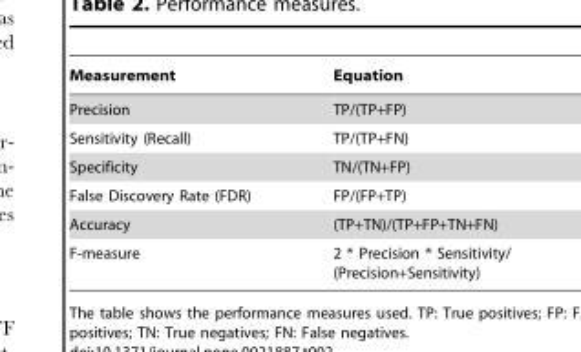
<table><thead><tr><td>Measurement</td><td>Equation</td></tr></thead><tbody><tr><td>Precision</td><td>TP/(TP+FP)</td></tr><tr><td>Sensitivity (Recall)</td><td>TP/(TP+FN)</td></tr><tr><td>Specificity</td><td>TN/(TN+FP)</td></tr><tr><td>False Discovery Rate (FDR)</td><td>FP/(FP+TP)</td></tr><tr><td>Accuracy</td><td>(TP+TN)/(TP+FP+TN+FN)</td></tr><tr><td>F-measure</td><td>2 * Precision * Sensitivity/ (Precision+Sensitivity)</td></tr></tbody></table>